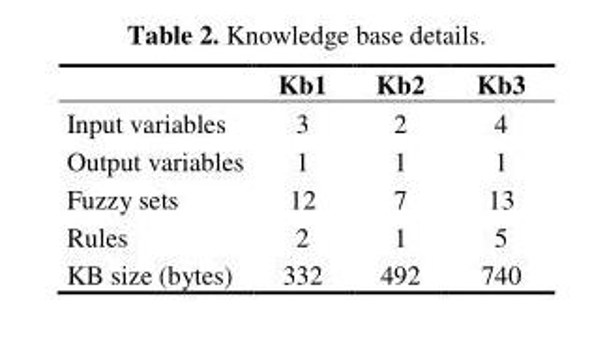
<table><thead><tr><td></td><td>Kb1</td><td>Kb2</td><td>Kb3</td></tr></thead><tbody><tr><td>Input variables</td><td>3</td><td>2</td><td>4</td></tr><tr><td>Output variables</td><td>1</td><td>1</td><td>1</td></tr><tr><td>Fuzzy sets</td><td>12</td><td>7</td><td>13</td></tr><tr><td>Rules</td><td>2</td><td>1</td><td>5</td></tr><tr><td>KB size (bytes)</td><td>332</td><td>492</td><td>740</td></tr></tbody></table>